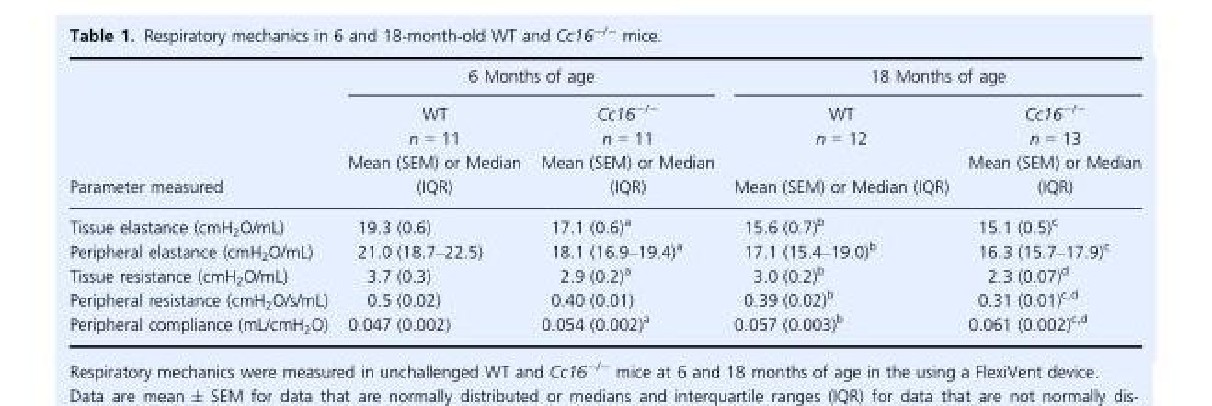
<table><thead><tr><td rowspan="3">Parameter measured</td><td colspan="2">6 Months of age</td><td colspan="2">18 Months of age</td></tr><tr><td rowspan="2">WT n = 11 Mean (SEM) or Median (IQR)</td><td rowspan="2">Cc16<sup>−/−</sup> n = 11 Mean (SEM) or Median (IQR)</td><td rowspan="2">WT n = 12 Mean (SEM) or Median (IQR)</td><td rowspan="2">Cc16<sup>−/−</sup> n = 13 Mean (SEM) or Median (IQR)</td></tr><tr></tr></thead><tbody><tr><td>Tissue elastance (cmH<sub>2</sub>O/mL)</td><td>19.3 (0.6)</td><td>17.1 (0.6)<sup>a</sup></td><td>15.6 (0.7)<sup>b</sup></td><td>15.1 (0.5)<sup>c</sup></td></tr><tr><td>Peripheral elastance (cmH<sub>2</sub>O/mL)</td><td>21.0 (18.7–22.5)</td><td>18.1 (16.9–19.4)<sup>a</sup></td><td>17.1 (15.4–19.0)<sup>b</sup></td><td>16.3 (15.7–17.9)<sup>c</sup></td></tr><tr><td>Tissue resistance (cmH<sub>2</sub>O/mL)</td><td>3.7 (0.3)</td><td>2.9 (0.2)<sup>a</sup></td><td>3.0 (0.2)<sup>b</sup></td><td>2.3 (0.07)<sup>d</sup></td></tr><tr><td>Peripheral resistance (cmH<sub>2</sub>O/s/mL)</td><td>0.5 (0.02)</td><td>0.40 (0.01)</td><td>0.39 (0.02)<sup>b</sup></td><td>0.31 (0.01)<sup>c,</sup>d</td></tr><tr><td>Peripheral compliance (mL/cmH<sub>2</sub>O)</td><td>0.047 (0.002)</td><td>0.054 (0.002)<sup>a</sup></td><td>0.057 (0.003)<sup>b</sup></td><td>0.061 (0.002)<sup>c,</sup>d</td></tr></tbody></table>